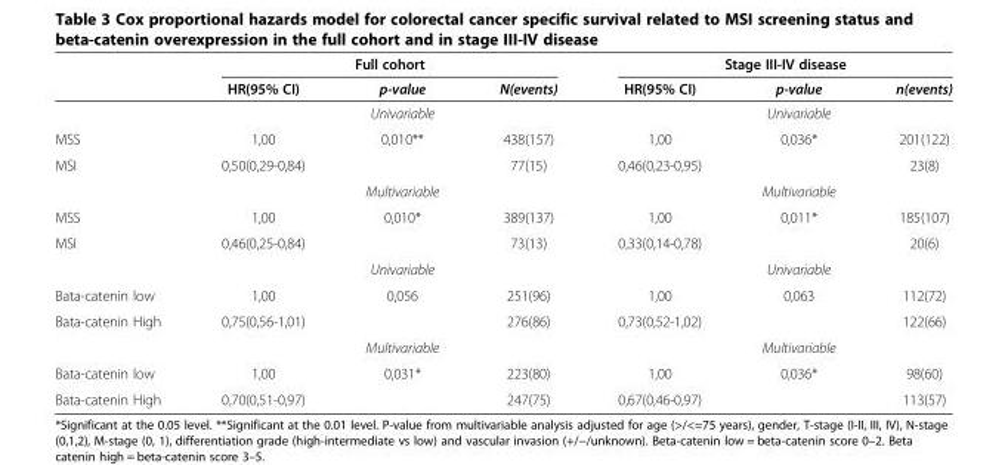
<table><thead><tr><td rowspan="2"></td><td colspan="3">Full cohort</td><td colspan="3">Stage III-IV disease</td></tr><tr><td>HR(95% CI)</td><td>p-value</td><td>N(events)</td><td>HR(95% CI)</td><td>p-value</td><td>n(events)</td></tr></thead><tbody><tr><td></td><td></td><td>Univariable</td><td></td><td></td><td>Univariable</td><td></td></tr><tr><td>MSS</td><td>1,00</td><td>0,010**</td><td>438(157)</td><td>1,00</td><td>0,036*</td><td>201(122)</td></tr><tr><td rowspan="2">MSI</td><td>0,50(0,29-0,84)</td><td></td><td>77(15)</td><td>0,46(0,23-0,95)</td><td></td><td>23(8)</td></tr><tr><td></td><td>Multivariable</td><td></td><td></td><td>Multivariable</td><td></td></tr><tr><td>MSS</td><td>1,00</td><td>0,010*</td><td>389(137)</td><td>1,00</td><td>0,011*</td><td>185(107)</td></tr><tr><td rowspan="2">MSI</td><td>0,46(0,25-0,84)</td><td></td><td>73(13)</td><td>0,33(0,14-0,78)</td><td></td><td>20(6)</td></tr><tr><td></td><td>Univariable</td><td></td><td></td><td>Univariable</td><td></td></tr><tr><td>Bata-catenin low</td><td>1,00</td><td>0,056</td><td>251(96)</td><td>1,00</td><td>0,063</td><td>112(72)</td></tr><tr><td rowspan="2">Bata-catenin High</td><td>0,75(0,56-1,01)</td><td></td><td>276(86)</td><td>0,73(0,52-1,02)</td><td></td><td>122(66)</td></tr><tr><td></td><td>Multivariable</td><td></td><td></td><td>Multivariable</td><td></td></tr><tr><td>Bata-catenin low</td><td>1,00</td><td>0,031*</td><td>223(80)</td><td>1,00</td><td>0,036*</td><td>98(60)</td></tr><tr><td>Bata-catenin High</td><td>0,70(0,51-0,97)</td><td></td><td>247(75)</td><td>0,67(0,46-0,97)</td><td></td><td>113(57)</td></tr></tbody></table>